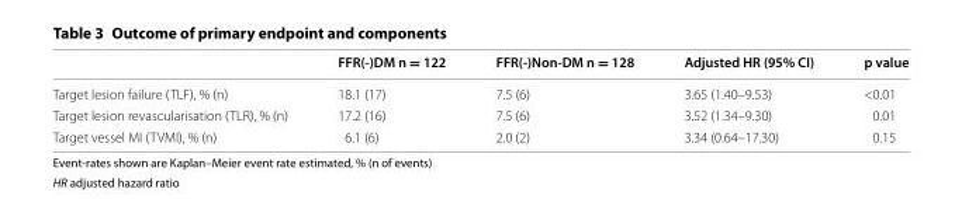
<table><thead><tr><td></td><td>FFR(-)DM n = 122</td><td>FFR(-)Non-DM n = 128</td><td>Adjusted HR (95% CI)</td><td>p value</td></tr></thead><tbody><tr><td>Target lesion failure (TLF), % (n)</td><td>18.1 (17)</td><td>7.5 (6)</td><td>3.65 (1.40–9.53)</td><td>&lt;0.01</td></tr><tr><td>Target lesion revascularisation (TLR), % (n)</td><td>17.2 (16)</td><td>7.5 (6)</td><td>3.52 (1.34–9.30)</td><td>0.01</td></tr><tr><td>Target vessel MI (TVMI), % (n)</td><td>6.1 (6)</td><td>2.0 (2)</td><td>3.34 (0.64–17.30)</td><td>0.15</td></tr></tbody></table>